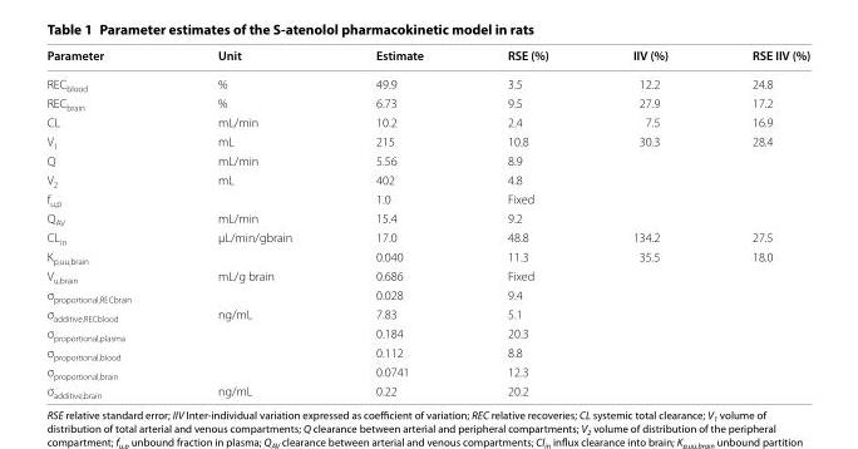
<table><thead><tr><td>Parameter</td><td>Unit</td><td>Estimate</td><td>RSE (%)</td><td>IIV (%)</td><td>RSE IIV (%)</td></tr></thead><tbody><tr><td>REC<sub>blood</sub></td><td>%</td><td>49.9</td><td>3.5</td><td>12.2</td><td>24.8</td></tr><tr><td>REC<sub>brain</sub></td><td>%</td><td>6.73</td><td>9.5</td><td>27.9</td><td>17.2</td></tr><tr><td>CL</td><td>mL/min</td><td>10.2</td><td>2.4</td><td>7.5</td><td>16.9</td></tr><tr><td>V<sub>1</sub></td><td>mL</td><td>215</td><td>10.8</td><td>30.3</td><td>28.4</td></tr><tr><td>Q</td><td>mL/min</td><td>5.56</td><td>8.9</td><td></td><td></td></tr><tr><td>V<sub>2</sub></td><td>mL</td><td>402</td><td>4.8</td><td></td><td></td></tr><tr><td>f<sub>u,p</sub></td><td></td><td>1.0</td><td>Fixed</td><td></td><td></td></tr><tr><td>Q<sub>AV</sub></td><td>mL/min</td><td>15.4</td><td>9.2</td><td></td><td></td></tr><tr><td>CL<sub>in</sub></td><td>µL/min/gbrain</td><td>17.0</td><td>48.8</td><td>134.2</td><td>27.5</td></tr><tr><td>K<sub>p,uu,brain</sub></td><td></td><td>0.040</td><td>11.3</td><td>35.5</td><td>18.0</td></tr><tr><td>V<sub>u,brain</sub></td><td>mL/g brain</td><td>0.686</td><td>Fixed</td><td></td><td></td></tr><tr><td>σ<sub>proportional,RECbrain</sub></td><td></td><td>0.028</td><td>9.4</td><td></td><td></td></tr><tr><td>σ<sub>additive,RECblood</sub></td><td>ng/mL</td><td>7.83</td><td>5.1</td><td></td><td></td></tr><tr><td>σ<sub>proportional,plasma</sub></td><td></td><td>0.184</td><td>20.3</td><td></td><td></td></tr><tr><td>σ<sub>proportional,blood</sub></td><td></td><td>0.112</td><td>8.8</td><td></td><td></td></tr><tr><td>σ<sub>proportional,brain</sub></td><td></td><td>0.0741</td><td>12.3</td><td></td><td></td></tr><tr><td>σ<sub>additive,brain</sub></td><td>ng/mL</td><td>0.22</td><td>20.2</td><td></td><td></td></tr></tbody></table>